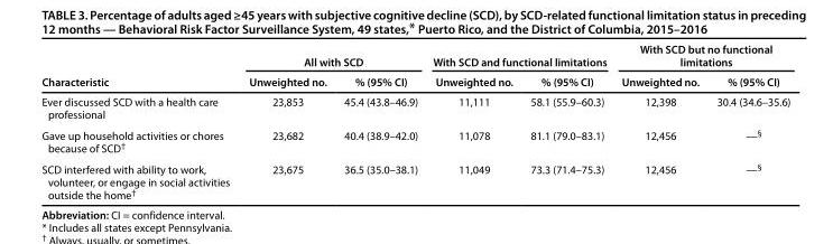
<table><thead><tr><td rowspan="2">Characteristic</td><td colspan="2">All with SCD</td><td colspan="2">With SCD and functional limitations</td><td colspan="2">With SCD but no functional limitations</td></tr><tr><td>Unweighted no.</td><td>% (95% CI)</td><td>Unweighted no.</td><td>% (95% CI)</td><td>Unweighted no.</td><td>% (95% CI)</td></tr></thead><tbody><tr><td>Ever discussed SCD with a health care professional</td><td>23,853</td><td>45.4 (43.8–46.9)</td><td>11,111</td><td>58.1 (55.9–60.3)</td><td>12,398</td><td>30.4 (34.6–35.6)</td></tr><tr><td>Gave up household activities or chores because of SCD<sup>†</sup></td><td>23,682</td><td>40.4 (38.9–42.0)</td><td>11,078</td><td>81.1 (79.0–83.1)</td><td>12,456</td><td>—<sup>§</sup></td></tr><tr><td>SCD interfered with ability to work, volunteer, or engage in social activities outside the home<sup>†</sup></td><td>23,675</td><td>36.5 (35.0–38.1)</td><td>11,049</td><td>73.3 (71.4–75.3)</td><td>12,456</td><td>—<sup>§</sup></td></tr></tbody></table>